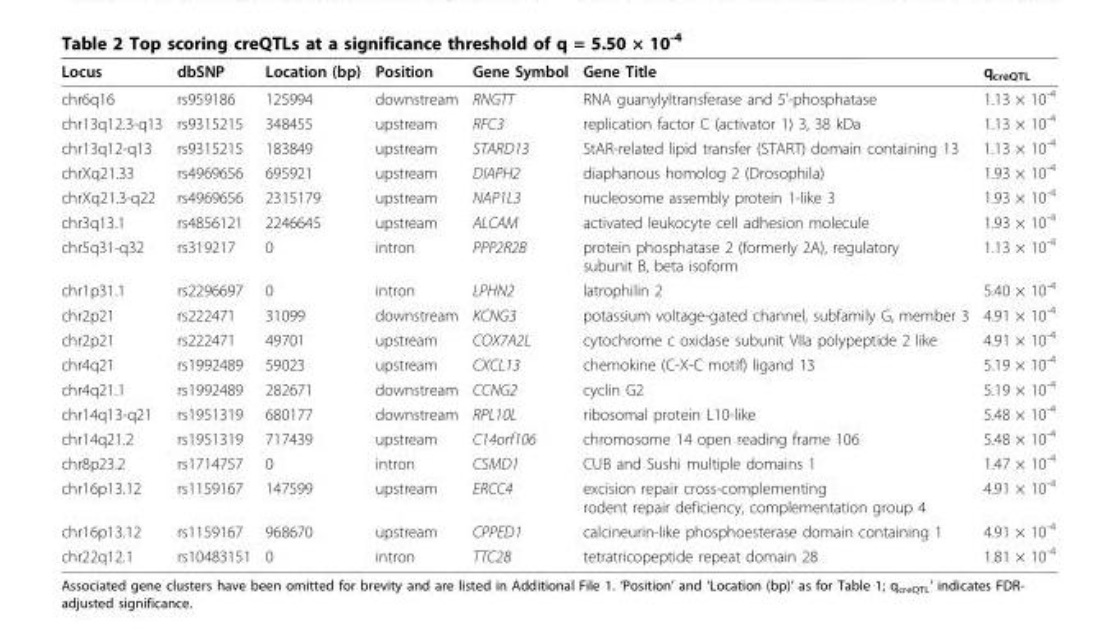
<table><thead><tr><td>Locus</td><td>dbSNP</td><td>Location (bp)</td><td>Position</td><td>Gene Symbol</td><td>Gene Title</td><td>q<sub>creQTL</sub></td></tr></thead><tbody><tr><td>chr6q16</td><td>rs959186</td><td>125994</td><td>downstream</td><td>RNGTT</td><td>RNA guanylyltransferase and 5’-phosphatase</td><td>1.13 × 10-4</td></tr><tr><td>chr13q12.3-q13</td><td>rs9315215</td><td>348455</td><td>upstream</td><td>RFC3</td><td>replication factor C (activator 1) 3, 38 kDa</td><td>1.13 × 10-4</td></tr><tr><td>chr13q12-q13</td><td>rs9315215</td><td>183849</td><td>upstream</td><td>STARD13</td><td>StAR-related lipid transfer (START) domain containing 13</td><td>1.13 × 10-4</td></tr><tr><td>chrXq21.33</td><td>rs4969656</td><td>695921</td><td>upstream</td><td>DIAPH2</td><td>diaphanous homolog 2 (Drosophila)</td><td>1.93 × 10-4</td></tr><tr><td>chrXq21.3-q22</td><td>rs4969656</td><td>2315179</td><td>upstream</td><td>NAP1L3</td><td>nucleosome assembly protein 1-like 3</td><td>1.93 × 10-4</td></tr><tr><td>chr3q13.1</td><td>rs4856121</td><td>2246645</td><td>upstream</td><td>ALCAM</td><td>activated leukocyte cell adhesion molecule</td><td>1.93 × 10-4</td></tr><tr><td>chr5q31-q32</td><td>rs319217</td><td>0</td><td>intron</td><td>PPP2R2B</td><td>protein phosphatase 2 (formerly 2A), regulatory subunit B, beta isoform</td><td>1.13 × 10-4</td></tr><tr><td>chr1p31.1</td><td>rs2296697</td><td>0</td><td>intron</td><td>LPHN2</td><td>latrophilin 2</td><td>5.40 × 10-4</td></tr><tr><td>chr2p21</td><td>rs222471</td><td>31099</td><td>downstream</td><td>KCNG3</td><td>potassium voltage-gated channel, subfamily G, member 3</td><td>4.91 × 10-4</td></tr><tr><td>chr2p21</td><td>rs222471</td><td>49701</td><td>upstream</td><td>COX7A2L</td><td>cytochrome c oxidase subunit VIIa polypeptide 2 like</td><td>4.91 × 10-4</td></tr><tr><td>chr4q21</td><td>rs1992489</td><td>59023</td><td>upstream</td><td>CXCL13</td><td>chemokine (C-X-C motif) ligand 13</td><td>5.19 × 10-4</td></tr><tr><td>chr4q21.1</td><td>rs1992489</td><td>282671</td><td>downstream</td><td>CCNG2</td><td>cyclin G2</td><td>5.19 × 10-4</td></tr><tr><td>chr14q13-q21</td><td>rs1951319</td><td>680177</td><td>downstream</td><td>RPL10L</td><td>ribosomal protein L10-like</td><td>5.48 × 10-4</td></tr><tr><td>chr14q21.2</td><td>rs1951319</td><td>717439</td><td>upstream</td><td>C14orf106</td><td>chromosome 14 open reading frame 106</td><td>5.48 × 10-4</td></tr><tr><td>chr8p23.2</td><td>rs1714757</td><td>0</td><td>intron</td><td>CSMD1</td><td>CUB and Sushi multiple domains 1</td><td>1.47 × 10-4</td></tr><tr><td>chr16p13.12</td><td>rs1159167</td><td>147599</td><td>upstream</td><td>ERCC4</td><td>excision repair cross-complementing rodent repair deficiency, complementation group 4</td><td>4.91 × 10-4</td></tr><tr><td>chr16p13.12</td><td>rs1159167</td><td>968670</td><td>upstream</td><td>CPPED1</td><td>calcineurin-like phosphoesterase domain containing 1</td><td>4.91 × 10-4</td></tr><tr><td>chr22q12.1</td><td>rs10483151</td><td>0</td><td>intron</td><td>TTC28</td><td>tetratricopeptide repeat domain 28</td><td>1.81 × 10-4</td></tr></tbody></table>